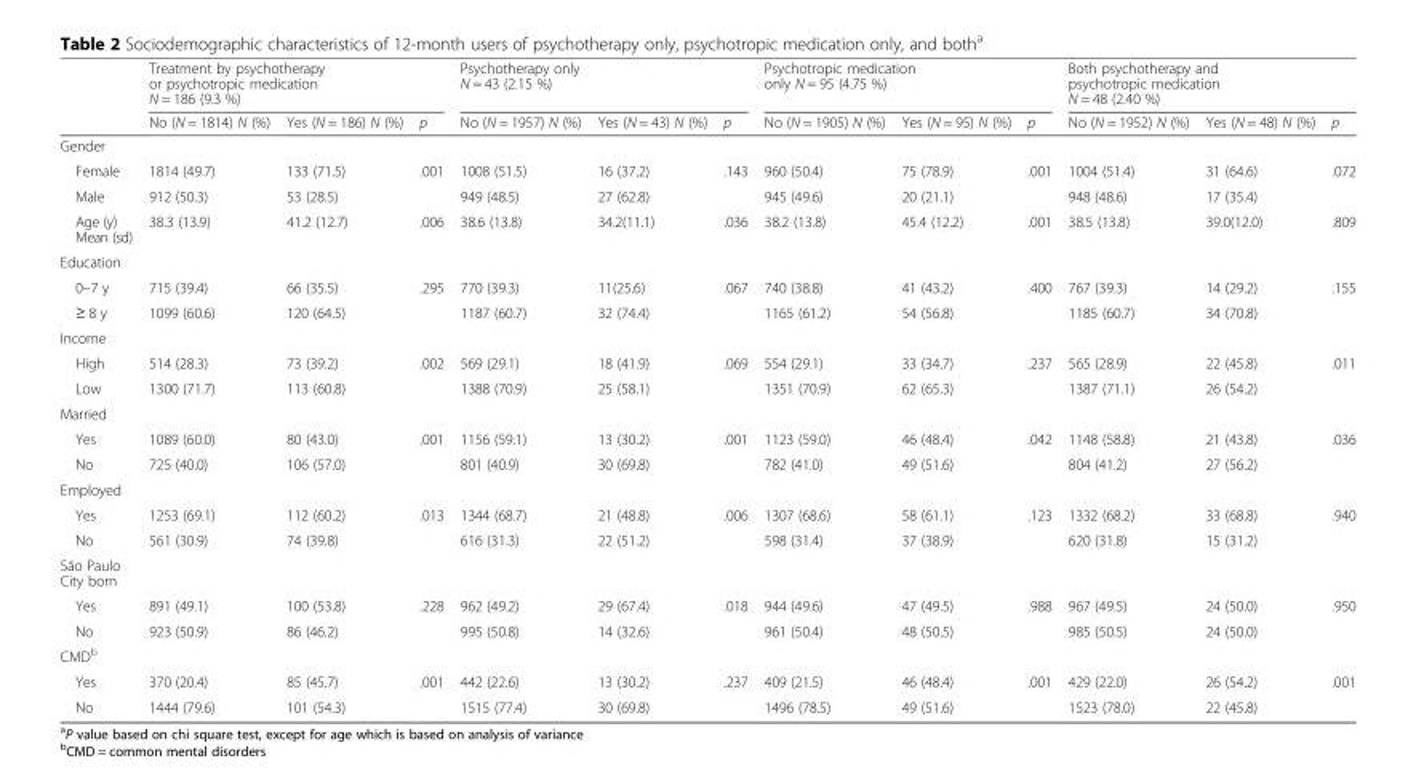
<table><thead><tr><td rowspan="2"></td><td colspan="3">Treatment by psychotherapy or psychotropic medication N = 186 (9.3 %)</td><td colspan="3">Psychotherapy only N = 43 (2.15 %)</td><td colspan="3">Psychotropic medication only N = 95 (4.75 %)</td><td colspan="3">Both psychotherapy and psychotropic medication N = 48 (2.40 %)</td></tr><tr><td>No (N = 1814) N (%)</td><td>Yes (N = 186) N (%)</td><td>p</td><td>No (N = 1957) N (%)</td><td>Yes (N = 43) N (%)</td><td>p</td><td>No (N = 1905) N (%)</td><td>Yes (N = 95) N (%)</td><td>p</td><td>No (N = 1952) N (%)</td><td>Yes (N = 48) N (%)</td><td>p</td></tr></thead><tbody><tr><td colspan="13">Gender</td></tr><tr><td>Female</td><td>1814 (49.7)</td><td>133 (71.5)</td><td>.001</td><td>1008 (51.5)</td><td>16 (37.2)</td><td>.143</td><td>960 (50.4)</td><td>75 (78.9)</td><td>.001</td><td>1004 (51.4)</td><td>31 (64.6)</td><td>.072</td></tr><tr><td>Male</td><td>912 (50.3)</td><td>53 (28.5)</td><td></td><td>949 (48.5)</td><td>27 (62.8)</td><td></td><td>945 (49.6)</td><td>20 (21.1)</td><td></td><td>948 (48.6)</td><td>17 (35.4)</td><td></td></tr><tr><td>Age (y) Mean (sd)</td><td>38.3 (13.9)</td><td>41.2 (12.7)</td><td>.006</td><td>38.6 (13.8)</td><td>34.2(11.1)</td><td>.036</td><td>38.2 (13.8)</td><td>45.4 (12.2)</td><td>.001</td><td>38.5 (13.8)</td><td>39.0(12.0)</td><td>.809</td></tr><tr><td colspan="13">Education</td></tr><tr><td>0–7 y</td><td>715 (39.4)</td><td>66 (35.5)</td><td>.295</td><td>770 (39.3)</td><td>11(25.6)</td><td>.067</td><td>740 (38.8)</td><td>41 (43.2)</td><td>.400</td><td>767 (39.3)</td><td>14 (29.2)</td><td>.155</td></tr><tr><td>≥ 8 y</td><td>1099 (60.6)</td><td>120 (64.5)</td><td></td><td>1187 (60.7)</td><td>32 (74.4)</td><td></td><td>1165 (61.2)</td><td>54 (56.8)</td><td></td><td>1185 (60.7)</td><td>34 (70.8)</td><td></td></tr><tr><td colspan="13">Income</td></tr><tr><td>High</td><td>514 (28.3)</td><td>73 (39.2)</td><td>.002</td><td>569 (29.1)</td><td>18 (41.9)</td><td>.069</td><td>554 (29.1)</td><td>33 (34.7)</td><td>.237</td><td>565 (28.9)</td><td>22 (45.8)</td><td>.011</td></tr><tr><td>Low</td><td>1300 (71.7)</td><td>113 (60.8)</td><td></td><td>1388 (70.9)</td><td>25 (58.1)</td><td></td><td>1351 (70.9)</td><td>62 (65.3)</td><td></td><td>1387 (71.1)</td><td>26 (54.2)</td><td></td></tr><tr><td colspan="13">Married</td></tr><tr><td>Yes</td><td>1089 (60.0)</td><td>80 (43.0)</td><td>.001</td><td>1156 (59.1)</td><td>13 (30.2)</td><td>.001</td><td>1123 (59.0)</td><td>46 (48.4)</td><td>.042</td><td>1148 (58.8)</td><td>21 (43.8)</td><td>.036</td></tr><tr><td>No</td><td>725 (40.0)</td><td>106 (57.0)</td><td></td><td>801 (40.9)</td><td>30 (69.8)</td><td></td><td>782 (41.0)</td><td>49 (51.6)</td><td></td><td>804 (41.2)</td><td>27 (56.2)</td><td></td></tr><tr><td colspan="13">Employed</td></tr><tr><td>Yes</td><td>1253 (69.1)</td><td>112 (60.2)</td><td>.013</td><td>1344 (68.7)</td><td>21 (48.8)</td><td>.006</td><td>1307 (68.6)</td><td>58 (61.1)</td><td>.123</td><td>1332 (68.2)</td><td>33 (68.8)</td><td>.940</td></tr><tr><td>No</td><td>561 (30.9)</td><td>74 (39.8)</td><td></td><td>616 (31.3)</td><td>22 (51.2)</td><td></td><td>598 (31.4)</td><td>37 (38.9)</td><td></td><td>620 (31.8)</td><td>15 (31.2)</td><td></td></tr><tr><td colspan="13">São Paulo City born</td></tr><tr><td>Yes</td><td>891 (49.1)</td><td>100 (53.8)</td><td>.228</td><td>962 (49.2)</td><td>29 (67.4)</td><td>.018</td><td>944 (49.6)</td><td>47 (49.5)</td><td>.988</td><td>967 (49.5)</td><td>24 (50.0)</td><td>.950</td></tr><tr><td>No</td><td>923 (50.9)</td><td>86 (46.2)</td><td></td><td>995 (50.8)</td><td>14 (32.6)</td><td></td><td>961 (50.4)</td><td>48 (50.5)</td><td></td><td>985 (50.5)</td><td>24 (50.0)</td><td></td></tr><tr><td colspan="13">CMD<sup>b</sup></td></tr><tr><td>Yes</td><td>370 (20.4)</td><td>85 (45.7)</td><td>.001</td><td>442 (22.6)</td><td>13 (30.2)</td><td>.237</td><td>409 (21.5)</td><td>46 (48.4)</td><td>.001</td><td>429 (22.0)</td><td>26 (54.2)</td><td>.001</td></tr><tr><td>No</td><td>1444 (79.6)</td><td>101 (54.3)</td><td></td><td>1515 (77.4)</td><td>30 (69.8)</td><td></td><td>1496 (78.5)</td><td>49 (51.6)</td><td></td><td>1523 (78.0)</td><td>22 (45.8)</td><td></td></tr></tbody></table>